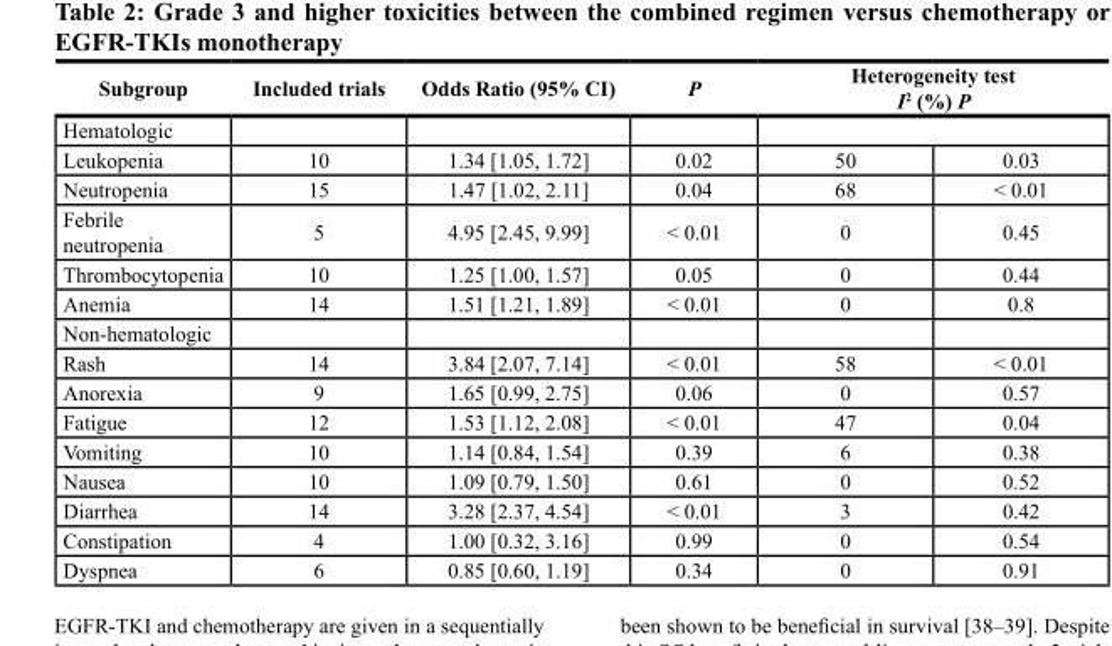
<table><thead><tr><td rowspan="3">subgroup Hematologic Leukopenia</td><td rowspan="3">Included trials 10</td><td rowspan="3">odds ratio (95% cI) 1.34 [1.05, 1.72]</td><td rowspan="3">P 0.02</td><td rowspan="2" colspan="2">Heterogeneity test I<sup>2</sup> (%) P</td></tr><tr></tr><tr><td>50</td><td>0.03</td></tr></thead><tbody><tr><td>Neutropenia</td><td>15</td><td>1.47 [1.02, 2.11]</td><td>0.04</td><td>68</td><td>&lt; 0.01</td></tr><tr><td>Febrile neutropenia</td><td>5</td><td>4.95 [2.45, 9.99]</td><td>&lt; 0.01</td><td>0</td><td>0.45</td></tr><tr><td>Thrombocytopenia</td><td>10</td><td>1.25 [1.00, 1.57]</td><td>0.05</td><td>0</td><td>0.44</td></tr><tr><td>Anemia</td><td>14</td><td>1.51 [1.21, 1.89]</td><td>&lt; 0.01</td><td>0</td><td>0.8</td></tr><tr><td colspan="6">Non-hematologic</td></tr><tr><td>Rash</td><td>14</td><td>3.84 [2.07, 7.14]</td><td>&lt; 0.01</td><td>58</td><td>&lt; 0.01</td></tr><tr><td>Anorexia</td><td>9</td><td>1.65 [0.99, 2.75]</td><td>0.06</td><td>0</td><td>0.57</td></tr><tr><td>Fatigue</td><td>12</td><td>1.53 [1.12, 2.08]</td><td>&lt; 0.01</td><td>47</td><td>0.04</td></tr><tr><td>Vomiting</td><td>10</td><td>1.14 [0.84, 1.54]</td><td>0.39</td><td>6</td><td>0.38</td></tr><tr><td>Nausea</td><td>10</td><td>1.09 [0.79, 1.50]</td><td>0.61</td><td>0</td><td>0.52</td></tr><tr><td>Diarrhea</td><td>14</td><td>3.28 [2.37, 4.54]</td><td>&lt; 0.01</td><td>3</td><td>0.42</td></tr><tr><td>Constipation</td><td>4</td><td>1.00 [0.32, 3.16]</td><td>0.99</td><td>0</td><td>0.54</td></tr><tr><td>Dyspnea</td><td>6</td><td>0.85 [0.60, 1.19]</td><td>0.34</td><td>0</td><td>0.91</td></tr></tbody></table>